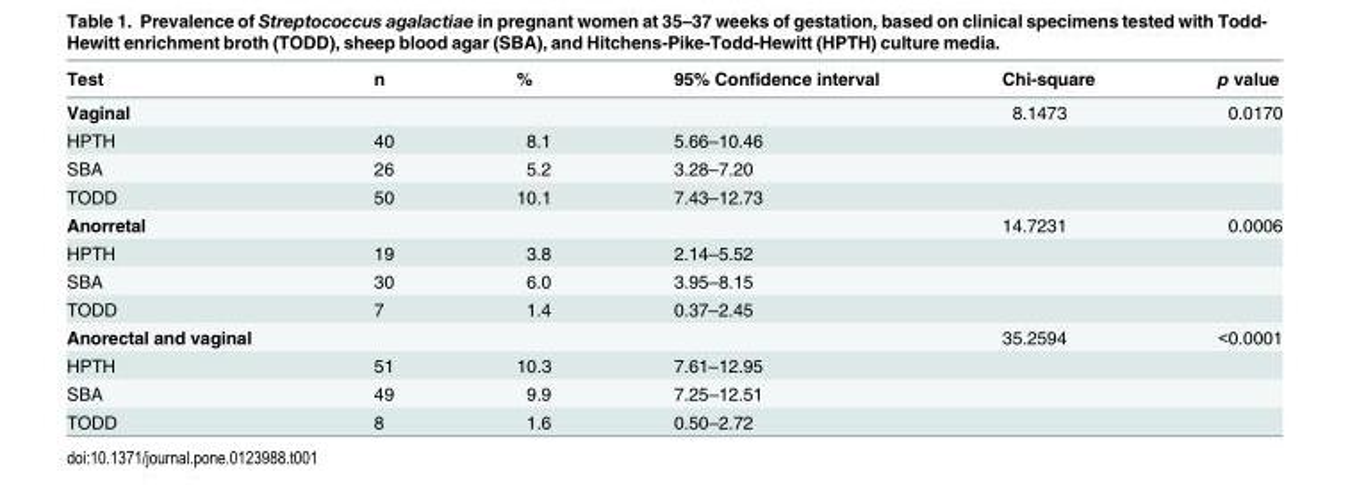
<table><thead><tr><td>Test</td><td>n</td><td>%</td><td>95% Confidence interval</td><td>Chi-square</td><td>p value</td></tr></thead><tbody><tr><td>Vaginal</td><td></td><td></td><td></td><td>8.1473</td><td>0.0170</td></tr><tr><td>HPTH</td><td>40</td><td>8.1</td><td>5.66–10.46</td><td></td><td></td></tr><tr><td>SBA</td><td>26</td><td>5.2</td><td>3.28–7.20</td><td></td><td></td></tr><tr><td>TODD</td><td>50</td><td>10.1</td><td>7.43–12.73</td><td></td><td></td></tr><tr><td>Anorretal</td><td></td><td></td><td></td><td>14.7231</td><td>0.0006</td></tr><tr><td>HPTH</td><td>19</td><td>3.8</td><td>2.14–5.52</td><td></td><td></td></tr><tr><td>SBA</td><td>30</td><td>6.0</td><td>3.95–8.15</td><td></td><td></td></tr><tr><td>TODD</td><td>7</td><td>1.4</td><td>0.37–2.45</td><td></td><td></td></tr><tr><td>Anorectal and vaginal</td><td></td><td></td><td></td><td>35.2594</td><td>&lt;0.0001</td></tr><tr><td>HPTH</td><td>51</td><td>10.3</td><td>7.61–12.95</td><td></td><td></td></tr><tr><td>SBA</td><td>49</td><td>9.9</td><td>7.25–12.51</td><td></td><td></td></tr><tr><td>TODD</td><td>8</td><td>1.6</td><td>0.50–2.72</td><td></td><td></td></tr></tbody></table>